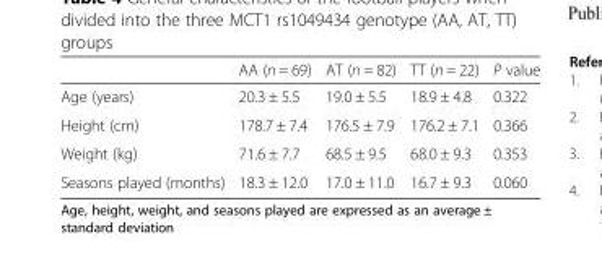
<table><thead><tr><td></td><td>AA (n = 69)</td><td>AT (n = 82)</td><td>TT (n = 22)</td><td>P value</td></tr></thead><tbody><tr><td>Age (years)</td><td>20.3 ± 5.5</td><td>19.0 ± 5.5</td><td>18.9 ± 4.8</td><td>0.322</td></tr><tr><td>Height (cm)</td><td>178.7 ± 7.4</td><td>176.5 ± 7.9</td><td>176.2 ± 7.1</td><td>0.366</td></tr><tr><td>Weight (kg)</td><td>71.6 ± 7.7</td><td>68.5 ± 9.5</td><td>68.0 ± 9.3</td><td>0.353</td></tr><tr><td>Seasons played (months)</td><td>18.3 ± 12.0</td><td>17.0 ± 11.0</td><td>16.7 ± 9.3</td><td>0.060</td></tr></tbody></table>